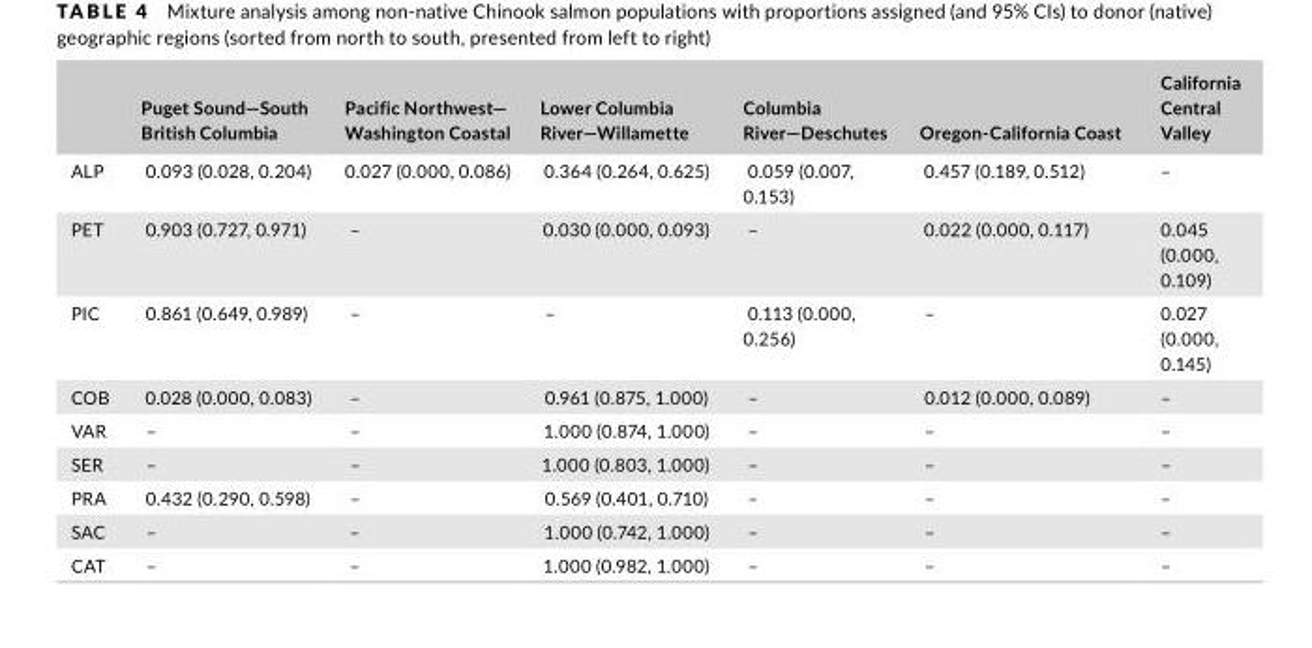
<table><thead><tr><td></td><td>Puget Sound—South British Columbia</td><td>Pacific Northwest— Washington Coastal</td><td>Lower Columbia River—Willamette</td><td>Columbia River—Deschutes</td><td>Oregon- California Coast</td><td>California Central Valley</td></tr></thead><tbody><tr><td>ALP</td><td>0.093 (0.028, 0.204)</td><td>0.027 (0.000, 0.086)</td><td>0.364 (0.264, 0.625)</td><td>0.059 (0.007, 0.153)</td><td>0.457 (0.189, 0.512)</td><td>–</td></tr><tr><td>PET</td><td>0.903 (0.727, 0.971)</td><td>–</td><td>0.030 (0.000, 0.093)</td><td>–</td><td>0.022 (0.000, 0.117)</td><td>0.045 (0.000, 0.109)</td></tr><tr><td>PIC</td><td>0.861 (0.649, 0.989)</td><td>–</td><td>–</td><td>0.113 (0.000, 0.256)</td><td>–</td><td>0.027 (0.000, 0.145)</td></tr><tr><td>COB</td><td>0.028 (0.000, 0.083)</td><td>–</td><td>0.961 (0.875, 1.000)</td><td>–</td><td>0.012 (0.000, 0.089)</td><td>–</td></tr><tr><td>VAR</td><td>–</td><td>–</td><td>1.000 (0.874, 1.000)</td><td>–</td><td>–</td><td>–</td></tr><tr><td>SER</td><td>–</td><td>–</td><td>1.000 (0.803, 1.000)</td><td>–</td><td>–</td><td>–</td></tr><tr><td>PRA</td><td>0.432 (0.290, 0.598)</td><td>–</td><td>0.569 (0.401, 0.710)</td><td>–</td><td>–</td><td>–</td></tr><tr><td>SAC</td><td>–</td><td>–</td><td>1.000 (0.742, 1.000)</td><td>–</td><td>–</td><td>–</td></tr><tr><td>CAT</td><td>–</td><td>–</td><td>1.000 (0.982, 1.000)</td><td>–</td><td>–</td><td>–</td></tr></tbody></table>